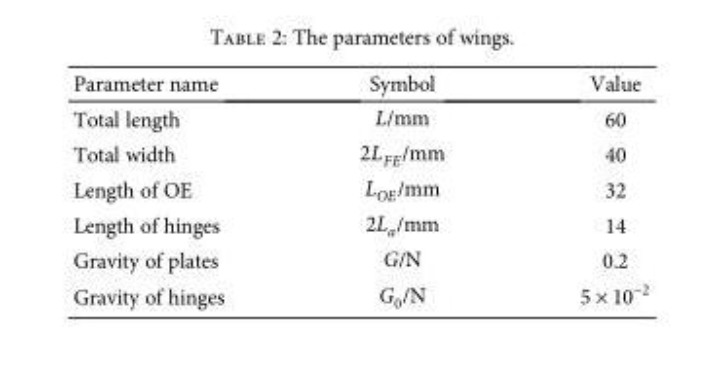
<table><thead><tr><td>Parameter name</td><td>Symbol</td><td>Value</td></tr></thead><tbody><tr><td>Total length</td><td>L/mm</td><td>60</td></tr><tr><td>Total width</td><td>2L<sub>FE</sub>/mm</td><td>40</td></tr><tr><td>Length of OE</td><td>L<sub>OE</sub>/mm</td><td>32</td></tr><tr><td>Length of hinges</td><td>2L<sub>a</sub>/mm</td><td>14</td></tr><tr><td>Gravity of plates</td><td>G/N</td><td>0.2</td></tr><tr><td>Gravity of hinges</td><td>G<sub>0</sub>/N</td><td>5 × 10<sup>−2</sup></td></tr></tbody></table>